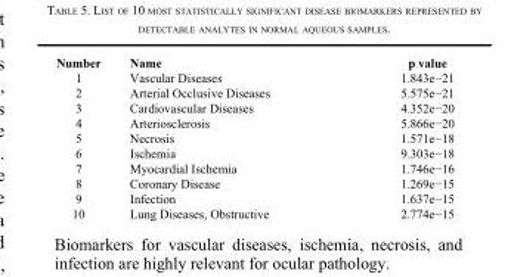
<table><thead><tr><td>Number</td><td>Name</td><td>p value</td></tr></thead><tbody><tr><td>1</td><td>Vascular Diseases</td><td>1.843e−21</td></tr><tr><td>2</td><td>Arterial Occlusive Diseases</td><td>5.575e−21</td></tr><tr><td>3</td><td>Cardiovascular Diseases</td><td>4.352e−20</td></tr><tr><td>4</td><td>Arteriosclerosis</td><td>5.866e−20</td></tr><tr><td>5</td><td>Necrosis</td><td>1.571e−18</td></tr><tr><td>6</td><td>Ischemia</td><td>9.303e−18</td></tr><tr><td>7</td><td>Myocardial Ischemia</td><td>1.746e−16</td></tr><tr><td>8</td><td>Coronary Disease</td><td>1.269e−15</td></tr><tr><td>9</td><td>Infection</td><td>1.637e−15</td></tr><tr><td>10</td><td>Lung Diseases, Obstructive</td><td>2.774e−15</td></tr></tbody></table>